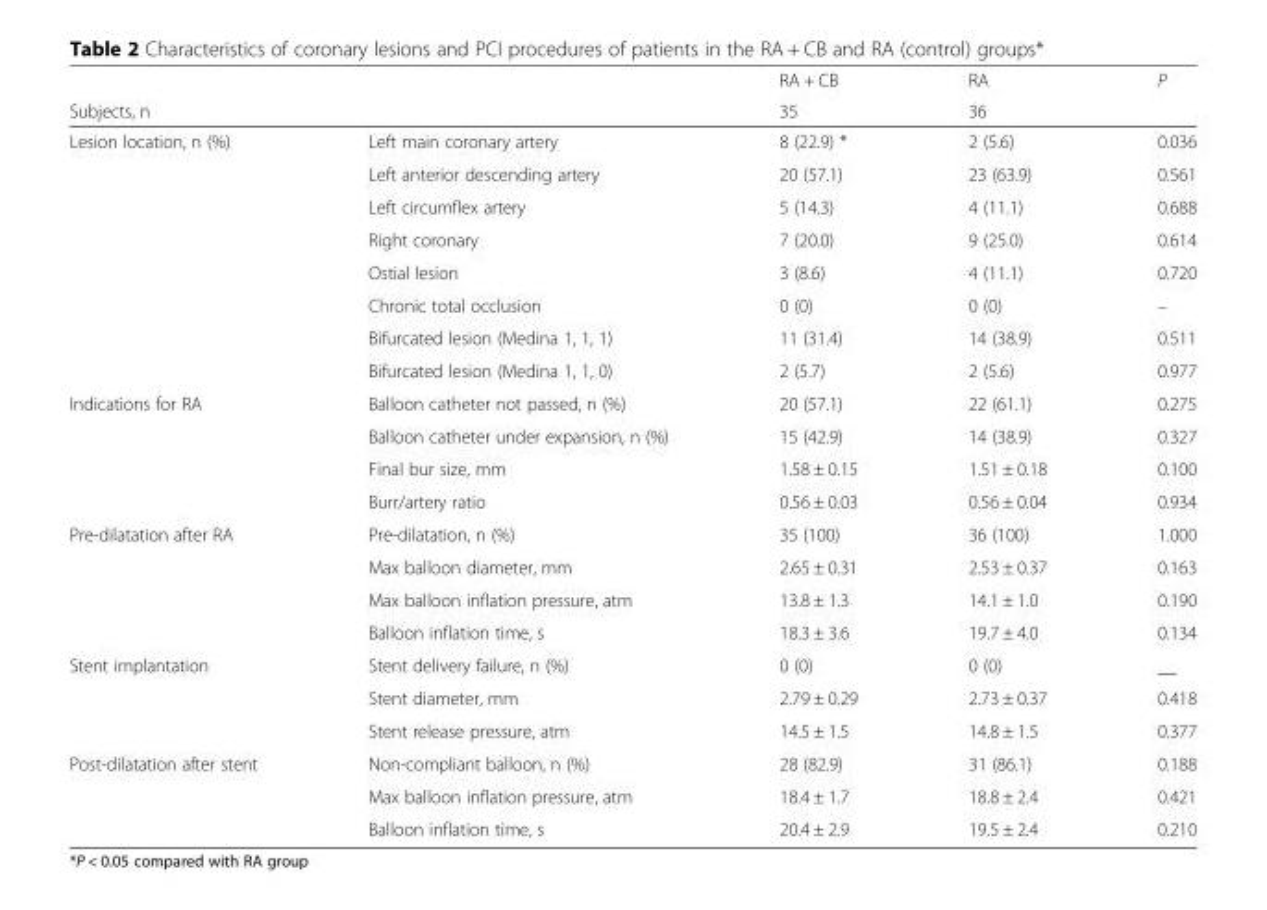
<table><thead><tr><td rowspan="2">Subjects, n</td><td rowspan="2"></td><td rowspan="2">RA + CB 35</td><td rowspan="2">RA 36</td><td rowspan="2">P</td></tr><tr></tr></thead><tbody><tr><td rowspan="8">Lesion location, n (%)</td><td>Left main coronary artery</td><td>8 (22.9) *</td><td>2 (5.6)</td><td>0.036</td></tr><tr><td>Left anterior descending artery</td><td>20 (57.1)</td><td>23 (63.9)</td><td>0.561</td></tr><tr><td>Left circumflex artery</td><td>5 (14.3)</td><td>4 (11.1)</td><td>0.688</td></tr><tr><td>Right coronary</td><td>7 (20.0)</td><td>9 (25.0)</td><td>0.614</td></tr><tr><td>Ostial lesion</td><td>3 (8.6)</td><td>4 (11.1)</td><td>0.720</td></tr><tr><td>Chronic total occlusion</td><td>0 (0)</td><td>0 (0)</td><td>–</td></tr><tr><td>Bifurcated lesion (Medina 1, 1, 1)</td><td>11 (31.4)</td><td>14 (38.9)</td><td>0.511</td></tr><tr><td>Bifurcated lesion (Medina 1, 1, 0)</td><td>2 (5.7)</td><td>2 (5.6)</td><td>0.977</td></tr><tr><td rowspan="4">Indications for RA</td><td>Balloon catheter not passed, n (%)</td><td>20 (57.1)</td><td>22 (61.1)</td><td>0.275</td></tr><tr><td>Balloon catheter under expansion, n (%)</td><td>15 (42.9)</td><td>14 (38.9)</td><td>0.327</td></tr><tr><td>Final bur size, mm</td><td>1.58 ± 0.15</td><td>1.51 ± 0.18</td><td>0.100</td></tr><tr><td>Burr/artery ratio</td><td>0.56 ± 0.03</td><td>0.56 ± 0.04</td><td>0.934</td></tr><tr><td rowspan="4">Pre-dilatation after RA</td><td>Pre-dilatation, n (%)</td><td>35 (100)</td><td>36 (100)</td><td>1.000</td></tr><tr><td>Max balloon diameter, mm</td><td>2.65 ± 0.31</td><td>2.53 ± 0.37</td><td>0.163</td></tr><tr><td>Max balloon inflation pressure, atm</td><td>13.8 ± 1.3</td><td>14.1 ± 1.0</td><td>0.190</td></tr><tr><td>Balloon inflation time, s</td><td>18.3 ± 3.6</td><td>19.7 ± 4.0</td><td>0.134</td></tr><tr><td rowspan="3">Stent implantation</td><td>Stent delivery failure, n (%)</td><td>0 (0)</td><td>0 (0)</td><td>__</td></tr><tr><td>Stent diameter, mm</td><td>2.79 ± 0.29</td><td>2.73 ± 0.37</td><td>0.418</td></tr><tr><td>Stent release pressure, atm</td><td>14.5 ± 1.5</td><td>14.8 ± 1.5</td><td>0.377</td></tr><tr><td rowspan="3">Post-dilatation after stent</td><td>Non-compliant balloon, n (%)</td><td>28 (82.9)</td><td>31 (86.1)</td><td>0.188</td></tr><tr><td>Max balloon inflation pressure, atm</td><td>18.4 ± 1.7</td><td>18.8 ± 2.4</td><td>0.421</td></tr><tr><td>Balloon inflation time, s</td><td>20.4 ± 2.9</td><td>19.5 ± 2.4</td><td>0.210</td></tr></tbody></table>